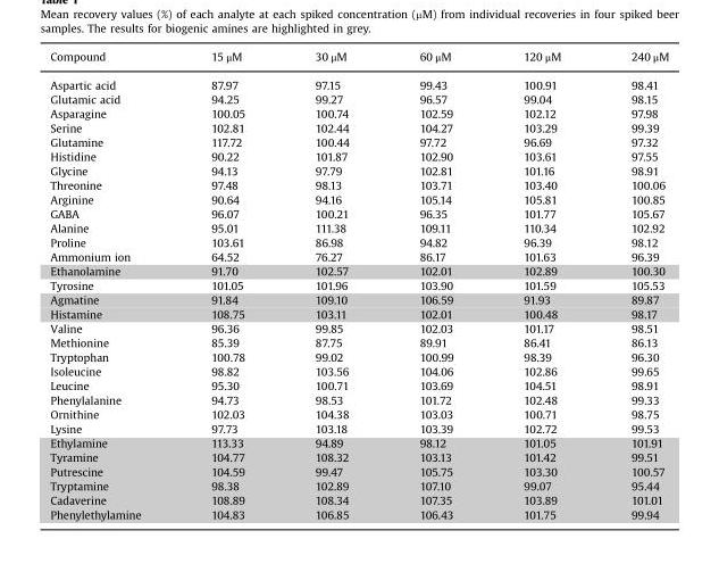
<table><thead><tr><td>Compound</td><td>15 μM</td><td>30 μM</td><td>60 μM</td><td>120 μM</td><td>240 μM</td></tr></thead><tbody><tr><td>Aspartic acid</td><td>87.97</td><td>97.15</td><td>99.43</td><td>100.91</td><td>98.41</td></tr><tr><td>Glutamic acid</td><td>94.25</td><td>99.27</td><td>96.57</td><td>99.04</td><td>98.15</td></tr><tr><td>Asparagine</td><td>100.05</td><td>100.74</td><td>102.59</td><td>102.12</td><td>97.98</td></tr><tr><td>Serine</td><td>102.81</td><td>102.44</td><td>104.27</td><td>103.29</td><td>99.39</td></tr><tr><td>Glutamine</td><td>117.72</td><td>100.44</td><td>97.72</td><td>96.69</td><td>97.32</td></tr><tr><td>Histidine</td><td>90.22</td><td>101.87</td><td>102.90</td><td>103.61</td><td>97.55</td></tr><tr><td>Glycine</td><td>94.13</td><td>97.79</td><td>102.81</td><td>101.16</td><td>98.91</td></tr><tr><td>Threonine</td><td>97.48</td><td>98.13</td><td>103.71</td><td>103.40</td><td>100.06</td></tr><tr><td>Arginine</td><td>90.64</td><td>94.16</td><td>105.14</td><td>105.81</td><td>100.85</td></tr><tr><td>GABA</td><td>96.07</td><td>100.21</td><td>96.35</td><td>101.77</td><td>105.67</td></tr><tr><td>Alanine</td><td>95.01</td><td>111.38</td><td>109.11</td><td>110.34</td><td>102.92</td></tr><tr><td>Proline</td><td>103.61</td><td>86.98</td><td>94.82</td><td>96.39</td><td>98.12</td></tr><tr><td>Ammonium ion</td><td>64.52</td><td>76.27</td><td>86.17</td><td>101.63</td><td>96.39</td></tr><tr><td>Ethanolamine</td><td>91.70</td><td>102.57</td><td>102.01</td><td>102.89</td><td>100.30</td></tr><tr><td>Tyrosine</td><td>101.05</td><td>101.96</td><td>103.90</td><td>101.59</td><td>105.53</td></tr><tr><td>Agmatine</td><td>91.84</td><td>109.10</td><td>106.59</td><td>91.93</td><td>89.87</td></tr><tr><td>Histamine</td><td>108.75</td><td>103.11</td><td>102.01</td><td>100.48</td><td>98.17</td></tr><tr><td>Valine</td><td>96.36</td><td>99.85</td><td>102.03</td><td>101.17</td><td>98.51</td></tr><tr><td>Methionine</td><td>85.39</td><td>87.75</td><td>89.91</td><td>86.41</td><td>86.13</td></tr><tr><td>Tryptophan</td><td>100.78</td><td>99.02</td><td>100.99</td><td>98.39</td><td>96.30</td></tr><tr><td>Isoleucine</td><td>98.82</td><td>103.56</td><td>104.06</td><td>102.86</td><td>99.65</td></tr><tr><td>Leucine</td><td>95.30</td><td>100.71</td><td>103.69</td><td>104.51</td><td>98.91</td></tr><tr><td>Phenylalanine</td><td>94.73</td><td>98.53</td><td>101.72</td><td>102.48</td><td>99.33</td></tr><tr><td>Ornithine</td><td>102.03</td><td>104.38</td><td>103.03</td><td>100.71</td><td>98.75</td></tr><tr><td>Lysine</td><td>97.73</td><td>103.18</td><td>103.39</td><td>102.72</td><td>99.53</td></tr><tr><td>Ethylamine</td><td>113.33</td><td>94.89</td><td>98.12</td><td>101.05</td><td>101.91</td></tr><tr><td>Tyramine</td><td>104.77</td><td>108.32</td><td>103.13</td><td>101.42</td><td>99.51</td></tr><tr><td>Putrescine</td><td>104.59</td><td>99.47</td><td>105.75</td><td>103.30</td><td>100.57</td></tr><tr><td>Tryptamine</td><td>98.38</td><td>102.89</td><td>107.10</td><td>99.07</td><td>95.44</td></tr><tr><td>Cadaverine</td><td>108.89</td><td>108.34</td><td>107.35</td><td>103.89</td><td>101.01</td></tr><tr><td>Phenylethylamine</td><td>104.83</td><td>106.85</td><td>106.43</td><td>101.75</td><td>99.94</td></tr></tbody></table>